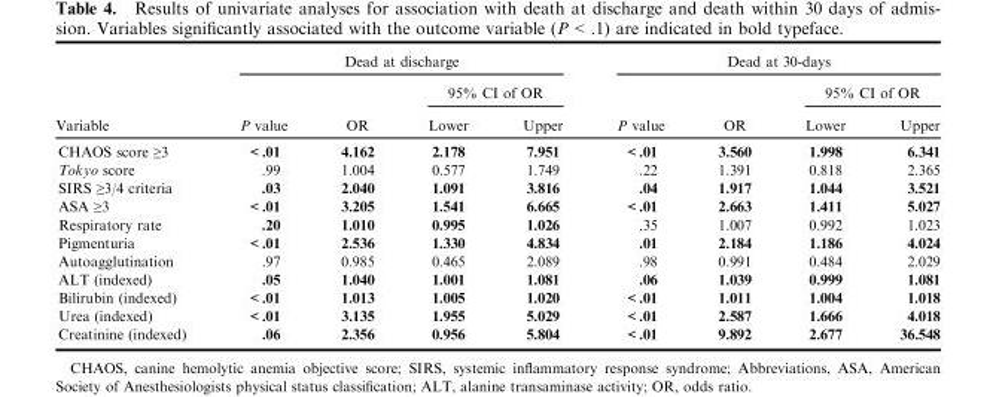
<table><thead><tr><td rowspan="3">Variable</td><td colspan="4">Dead at discharge</td><td colspan="4">Dead at 30-days</td></tr><tr><td rowspan="2">P value</td><td rowspan="2">OR</td><td colspan="2">95% CI of OR</td><td rowspan="2">P value</td><td rowspan="2">OR</td><td colspan="2">95% CI of OR</td></tr><tr><td>Lower</td><td>Upper</td><td>Lower</td><td>Upper</td></tr></thead><tbody><tr><td>CHAOS score ≥3</td><td>&lt;.01</td><td>4.162</td><td>2.178</td><td>7.951</td><td>&lt;.01</td><td>3.560</td><td>1.998</td><td>6.341</td></tr><tr><td>Tokyo score</td><td>.99</td><td>1.004</td><td>0.577</td><td>1.749</td><td>.22</td><td>1.391</td><td>0.818</td><td>2.365</td></tr><tr><td>SIRS ≥3/4 criteria</td><td>.03</td><td>2.040</td><td>1.091</td><td>3.816</td><td>.04</td><td>1.917</td><td>1.044</td><td>3.521</td></tr><tr><td>ASA ≥3</td><td>&lt;.01</td><td>3.205</td><td>1.541</td><td>6.665</td><td>&lt;.01</td><td>2.663</td><td>1.411</td><td>5.027</td></tr><tr><td>Respiratory rate</td><td>.20</td><td>1.010</td><td>0.995</td><td>1.026</td><td>.35</td><td>1.007</td><td>0.992</td><td>1.023</td></tr><tr><td>Pigmenturia</td><td>&lt;.01</td><td>2.536</td><td>1.330</td><td>4.834</td><td>.01</td><td>2.184</td><td>1.186</td><td>4.024</td></tr><tr><td>Autoagglutination</td><td>.97</td><td>0.985</td><td>0.465</td><td>2.089</td><td>.98</td><td>0.991</td><td>0.484</td><td>2.029</td></tr><tr><td>ALT (indexed)</td><td>.05</td><td>1.040</td><td>1.001</td><td>1.081</td><td>.06</td><td>1.039</td><td>0.999</td><td>1.081</td></tr><tr><td>Bilirubin (indexed)</td><td>&lt;.01</td><td>1.013</td><td>1.005</td><td>1.020</td><td>&lt;.01</td><td>1.011</td><td>1.004</td><td>1.018</td></tr><tr><td>Urea (indexed)</td><td>&lt;.01</td><td>3.135</td><td>1.955</td><td>5.029</td><td>&lt;.01</td><td>2.587</td><td>1.666</td><td>4.018</td></tr><tr><td>Creatinine (indexed)</td><td>.06</td><td>2.356</td><td>0.956</td><td>5.804</td><td>&lt;.01</td><td>9.892</td><td>2.677</td><td>36.548</td></tr></tbody></table>